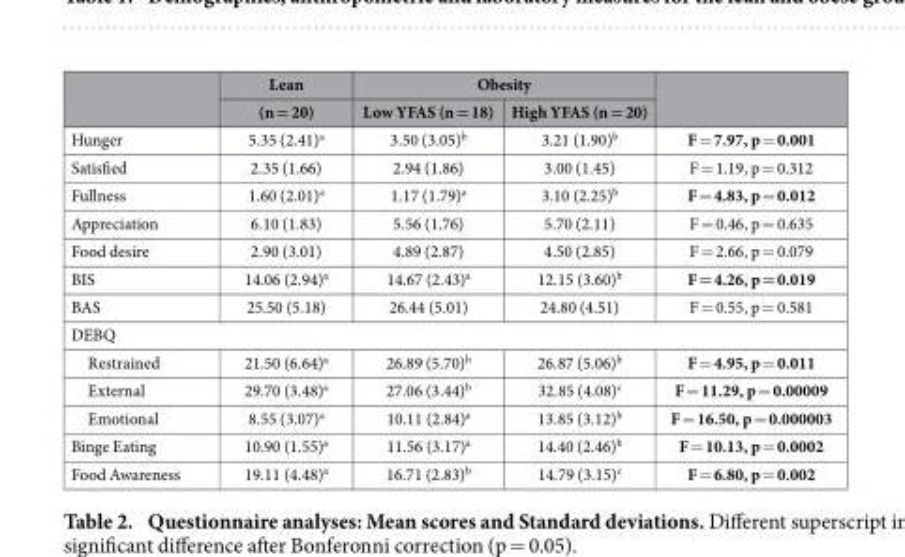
<table><thead><tr><td rowspan="2"></td><td rowspan="2">Lean (n = 20)</td><td colspan="2">Obesity</td><td rowspan="2"></td></tr><tr><td>Low YFAS (n = 18)</td><td>High YFAS (n = 20)</td></tr></thead><tbody><tr><td>Hunger</td><td>5.35 (2.41)<sup>a</sup></td><td>3.50 (3.05)<sup>b</sup></td><td>3.21 (1.90)<sup>b</sup></td><td>F = 7.97, p = 0.001</td></tr><tr><td>Satisfied</td><td>2.35 (1.66)</td><td>2.94 (1.86)</td><td>3.00 (1.45)</td><td>F = 1.19, p = 0.312</td></tr><tr><td>Fullness</td><td>1.60 (2.01)<sup>a</sup></td><td>1.17 (1.79)<sup>a</sup></td><td>3.10 (2.25)<sup>b</sup></td><td>F = 4.83, p = 0.012</td></tr><tr><td>Appreciation</td><td>6.10 (1.83)</td><td>5.56 (1.76)</td><td>5.70 (2.11)</td><td>F = 0.46, p = 0.635</td></tr><tr><td>Food desire</td><td>2.90 (3.01)</td><td>4.89 (2.87)</td><td>4.50 (2.85)</td><td>F = 2.66, p = 0.079</td></tr><tr><td>BIS</td><td>14.06 (2.94)<sup>a</sup></td><td>14.67 (2.43)<sup>a</sup></td><td>12.15 (3.60)<sup>b</sup></td><td>F = 4.26, p = 0.019</td></tr><tr><td>BAS</td><td>25.50 (5.18)</td><td>26.44 (5.01)</td><td>24.80 (4.51)</td><td>F = 0.55, p = 0.581</td></tr><tr><td colspan="5">DEBQ</td></tr><tr><td>Restrained</td><td>21.50 (6.64)<sup>a</sup></td><td>26.89 (5.70)<sup>b</sup></td><td>26.87 (5.06)<sup>b</sup></td><td>F = 4.95, p = 0.011</td></tr><tr><td>External</td><td>29.70 (3.48)<sup>a</sup></td><td>27.06 (3.44)<sup>b</sup></td><td>32.85 (4.08)<sup>c</sup></td><td>F = 11.29, p = 0.00009</td></tr><tr><td>Emotional</td><td>8.55 (3.07)<sup>a</sup></td><td>10.11 (2.84)<sup>a</sup></td><td>13.85 (3.12)<sup>b</sup></td><td>F = 16.50, p = 0.000003</td></tr><tr><td>Binge Eating</td><td>10.90 (1.55)<sup>a</sup></td><td>11.56 (3.17)<sup>a</sup></td><td>14.40 (2.46)<sup>b</sup></td><td>F = 10.13, p = 0.0002</td></tr><tr><td>Food Awareness</td><td>19.11 (4.48)<sup>a</sup></td><td>16.71 (2.83)<sup>b</sup></td><td>14.79 (3.15)<sup>c</sup></td><td>F = 6.80, p = 0.002</td></tr></tbody></table>